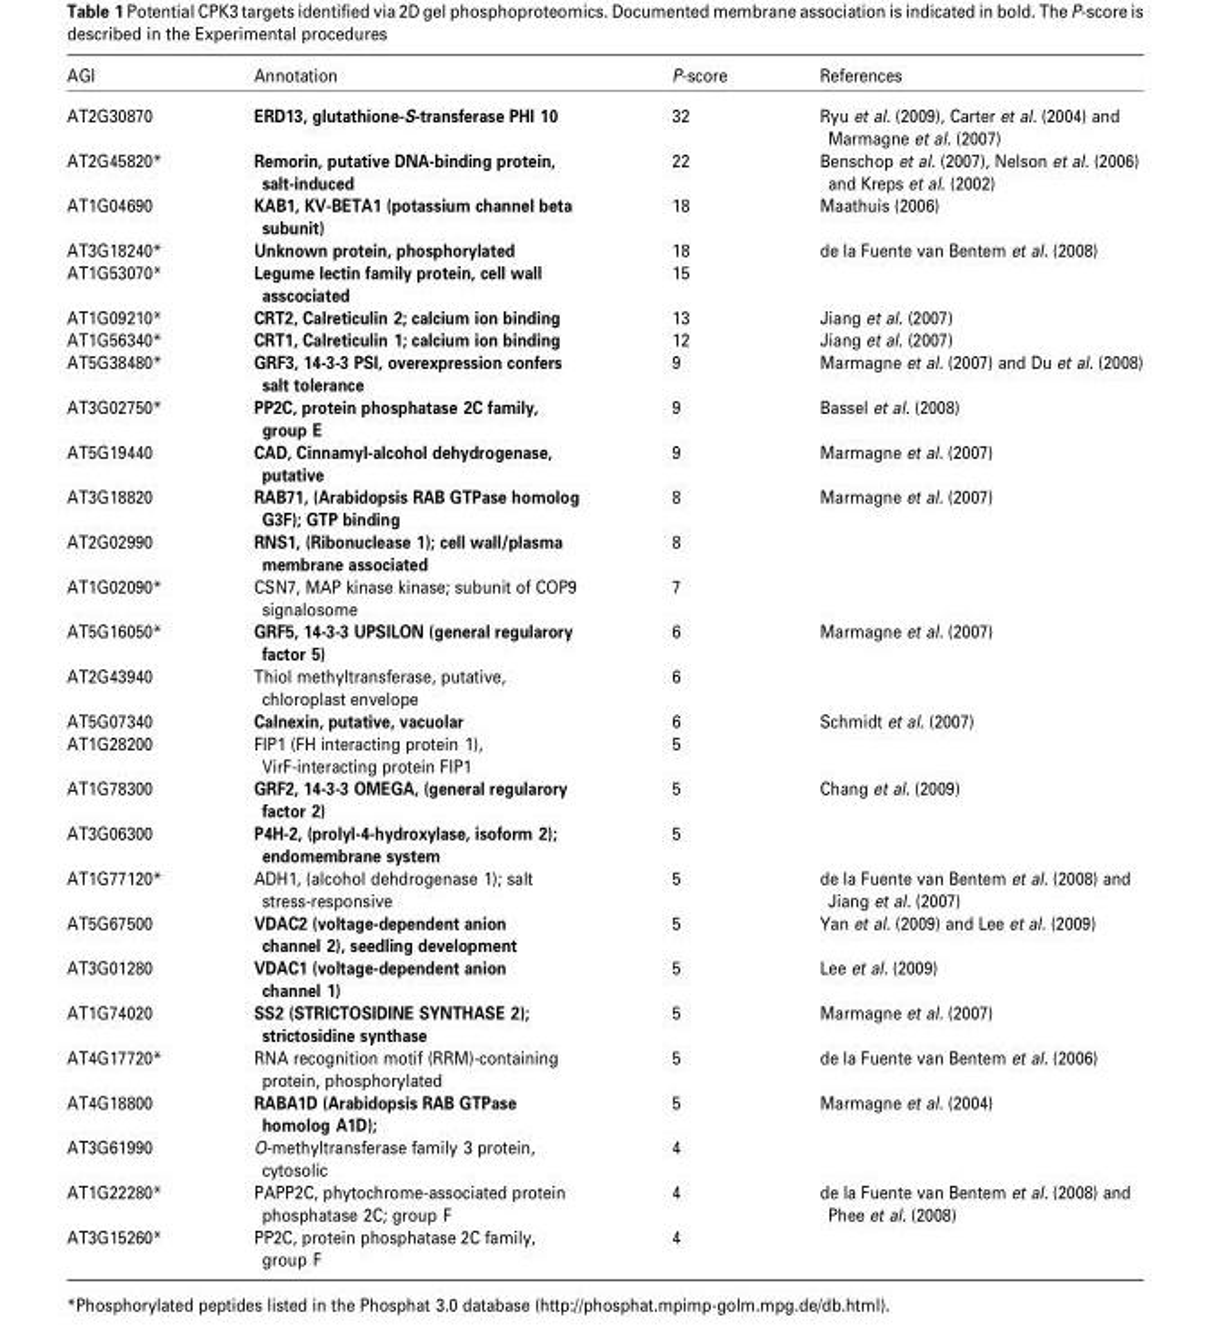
<table><thead><tr><td>AGI</td><td>Annotation</td><td>P-score</td><td>References</td></tr></thead><tbody><tr><td>AT2G30870</td><td>ERD13, glutathione-S-transferase PHI 10</td><td>32</td><td>Ryu et al. (2009), Carter et al. (2004) and Marmagne et al. (2007)</td></tr><tr><td>AT2G45820*</td><td>Remorin, putative DNA-binding protein, salt-induced</td><td>22</td><td>Benschop et al. (2007), Nelson et al. (2006) and Kreps et al. (2002)</td></tr><tr><td>AT1G04690</td><td>KAB1, KV-BETA1 (potassium channel beta subunit)</td><td>18</td><td>Maathuis (2006)</td></tr><tr><td>AT3G18240*</td><td>Unknown protein, phosphorylated</td><td>18</td><td>de la Fuente van Bentem et al. (2008)</td></tr><tr><td>AT1G53070*</td><td>Legume lectin family protein, cell wall asscociated</td><td>15</td><td></td></tr><tr><td>AT1G09210*</td><td>CRT2, Calreticulin 2; calcium ion binding</td><td>13</td><td>Jiang et al. (2007)</td></tr><tr><td>AT1G56340*</td><td>CRT1, Calreticulin 1; calcium ion binding</td><td>12</td><td>Jiang et al. (2007)</td></tr><tr><td>AT5G38480*</td><td>GRF3, 14-3-3 PSI, overexpression confers salt tolerance</td><td>9</td><td>Marmagne et al. (2007) and Du et al. (2008)</td></tr><tr><td>AT3G02750*</td><td>PP2C, protein phosphatase 2C family, group E</td><td>9</td><td>Bassel et al. (2008)</td></tr><tr><td>AT5G19440</td><td>CAD, Cinnamyl-alcohol dehydrogenase, putative</td><td>9</td><td>Marmagne et al. (2007)</td></tr><tr><td>AT3G18820</td><td>RAB71, (Arabidopsis RAB GTPase homolog G3F); GTP binding</td><td>8</td><td>Marmagne et al. (2007)</td></tr><tr><td>AT2G02990</td><td>RNS1, (Ribonuclease 1); cell wall/plasma membrane associated</td><td>8</td><td></td></tr><tr><td>AT1G02090*</td><td>CSN7, MAP kinase kinase; subunit of COP9 signalosome</td><td>7</td><td></td></tr><tr><td>AT5G16050*</td><td>GRF5, 14-3-3 UPSILON (general regularory factor 5)</td><td>6</td><td>Marmagne et al. (2007)</td></tr><tr><td>AT2G43940</td><td>Thiol methyltransferase, putative, chloroplast envelope</td><td>6</td><td></td></tr><tr><td>AT5G07340</td><td>Calnexin, putative, vacuolar</td><td>6</td><td>Schmidt et al. (2007)</td></tr><tr><td>AT1G28200</td><td>FIP1 (FH interacting protein 1), VirF-interacting protein FIP1</td><td>5</td><td></td></tr><tr><td>AT1G78300</td><td>GRF2, 14-3-3 OMEGA, (general regularory factor 2)</td><td>5</td><td>Chang et al. (2009)</td></tr><tr><td>AT3G06300</td><td>P4H-2, (prolyl-4-hydroxylase, isoform 2); endomembrane system</td><td>5</td><td></td></tr><tr><td>AT1G77120*</td><td>ADH1, (alcohol dehdrogenase 1); salt stress-responsive</td><td>5</td><td>de la Fuente van Bentem et al. (2008) and Jiang et al. (2007)</td></tr><tr><td>AT5G67500</td><td>VDAC2 (voltage-dependent anion channel 2), seedling development</td><td>5</td><td>Yan et al. (2009) and Lee et al. (2009)</td></tr><tr><td>AT3G01280</td><td>VDAC1 (voltage-dependent anion channel 1)</td><td>5</td><td>Lee et al. (2009)</td></tr><tr><td>AT1G74020</td><td>SS2 (STRICTOSIDINE SYNTHASE 2); strictosidine synthase</td><td>5</td><td>Marmagne et al. (2007)</td></tr><tr><td>AT4G17720*</td><td>RNA recognition motif (RRM)-containing protein, phosphorylated</td><td>5</td><td>de la Fuente van Bentem et al. (2006)</td></tr><tr><td>AT4G18800</td><td>RABA1D (Arabidopsis RAB GTPase homolog A1D);</td><td>5</td><td>Marmagne et al. (2004)</td></tr><tr><td>AT3G61990</td><td>O-methyltransferase family 3 protein, cytosolic</td><td>4</td><td></td></tr><tr><td>AT1G22280*</td><td>PAPP2C, phytochrome-associated protein phosphatase 2C; group F</td><td>4</td><td>de la Fuente van Bentem et al. (2008) and Phee et al. (2008)</td></tr><tr><td>AT3G15260*</td><td>PP2C, protein phosphatase 2C family, group F</td><td>4</td><td></td></tr></tbody></table>